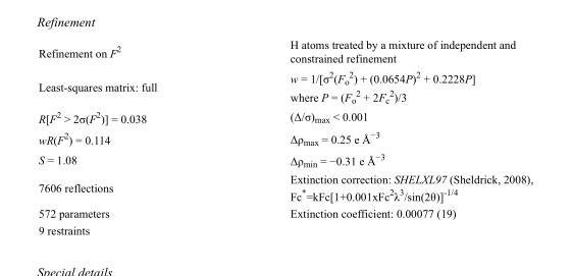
<table><tbody><tr><td>Refinement on F<sup>2</sup></td><td>H atoms treated by a mixture of independent and constrained refinement</td></tr><tr><td>Least-squares matrix: full</td><td>w = 1/[σ<sup>2</sup>(F<sub>o</sub> <sup>2</sup>) + (0.0654P)<sup>2</sup> + 0.2228P] where P = (F<sub>o</sub> <sup>2</sup> + 2F<sub>c</sub> <sup>2</sup>)/3</td></tr><tr><td>R[F<sup>2</sup> &gt; 2σ(F<sup>2</sup>)] = 0.038</td><td>(Δ/σ)<sub>max</sub> &lt; 0.001</td></tr><tr><td>wR(F<sup>2</sup>) = 0.114</td><td>Δρ<sub>max</sub> = 0.25 e Å<sup>−3</sup></td></tr><tr><td>S = 1.08</td><td>Δρ<sub>min</sub> = −0.31 e Å<sup>−3</sup></td></tr><tr><td>7606 reflections</td><td>Extinction correction: SHELXL97 (Sheldrick, 2008), Fc*=kFc[1+0.001xFc<sup>2</sup>λ<sup>3</sup>/sin(2θ)]<sup>-1/4</sup></td></tr><tr><td>572 parameters</td><td>Extinction coefficient: 0.00077 (19)</td></tr><tr><td>9 restraints</td><td></td></tr></tbody></table>